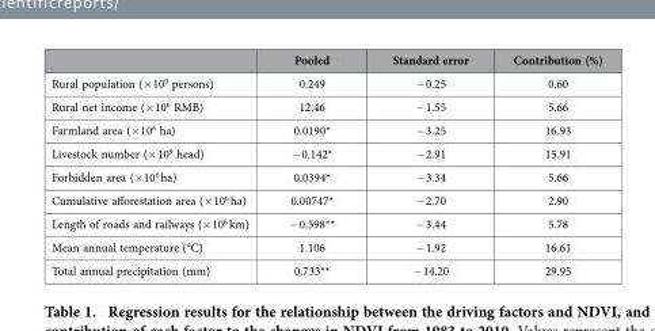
<table><thead><tr><td></td><td>Pooled</td><td>Standard error</td><td>Contribution (%)</td></tr></thead><tbody><tr><td>Rural population (× 10<sup>9</sup> persons)</td><td>0.249</td><td>− 0.25</td><td>0.60</td></tr><tr><td>Rural net income (× 10<sup>6</sup> RMB)</td><td>12.46</td><td>− 1.55</td><td>5.66</td></tr><tr><td>Farmland area (× 10<sup>6</sup> ha)</td><td>0.0190*</td><td>− 3.25</td><td>16.93</td></tr><tr><td>Livestock number (× 10<sup>9</sup> head)</td><td>− 0.142*</td><td>− 2.91</td><td>15.91</td></tr><tr><td>Forbidden area (× 10<sup>6</sup> ha)</td><td>0.0394*</td><td>− 3.34</td><td>5.66</td></tr><tr><td>Cumulative afforestation area (× 10<sup>6</sup> ha)</td><td>0.00747*</td><td>− 2.70</td><td>2.90</td></tr><tr><td>Length of roads and railways (× 10<sup>6</sup> km)</td><td>− 0.598**</td><td>− 3.44</td><td>5.78</td></tr><tr><td>Mean annual temperature (°C)</td><td>1.106</td><td>− 1.92</td><td>16.61</td></tr><tr><td>Total annual precipitation (mm)</td><td>0.733**</td><td>− 14.20</td><td>29.95</td></tr></tbody></table>